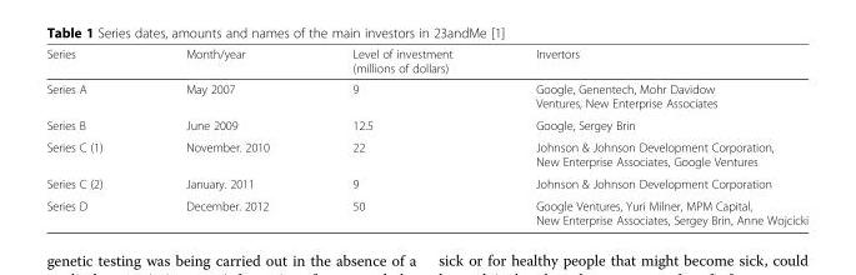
<table><thead><tr><td>Series</td><td>Month/year</td><td>Level of investment (millions of dollars)</td><td>Invertors</td></tr></thead><tbody><tr><td>Series A</td><td>May 2007</td><td>9</td><td>Google, Genentech, Mohr Davidow Ventures, New Enterprise Associates</td></tr><tr><td>Series B</td><td>June 2009</td><td>12.5</td><td>Google, Sergey Brin</td></tr><tr><td>Series C (1)</td><td>November. 2010</td><td>22</td><td>Johnson &amp; Johnson Development Corporation, New Enterprise Associates, Google Ventures</td></tr><tr><td>Series C (2)</td><td>January. 2011</td><td>9</td><td>Johnson &amp; Johnson Development Corporation</td></tr><tr><td>Series D</td><td>December. 2012</td><td>50</td><td>Google Ventures, Yuri Milner, MPM Capital, New Enterprise Associates, Sergey Brin, Anne Wojcicki</td></tr></tbody></table>